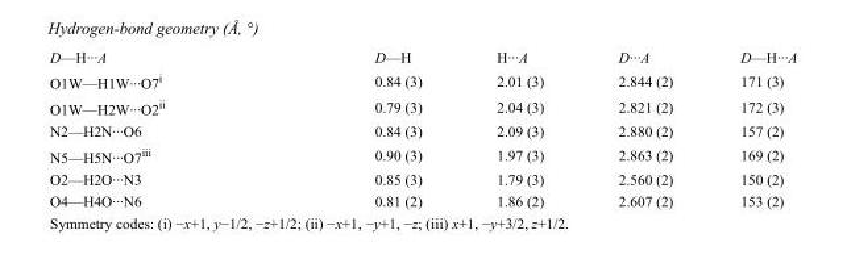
<table><tbody><tr><td>D—H···A</td><td>D—H</td><td>H···A</td><td>D···A</td><td>D—H···A</td></tr><tr><td>O1W—H1W···O7<sup>i</sup></td><td>0.84 (3)</td><td>2.01 (3)</td><td>2.844 (2)</td><td>171 (3)</td></tr><tr><td>O1W—H2W···O2<sup>ii</sup></td><td>0.79 (3)</td><td>2.04 (3)</td><td>2.821 (2)</td><td>172 (3)</td></tr><tr><td>N2—H2N···O6</td><td>0.84 (3)</td><td>2.09 (3)</td><td>2.880 (2)</td><td>157 (2)</td></tr><tr><td>N5—H5N···O7<sup>iii</sup></td><td>0.90 (3)</td><td>1.97 (3)</td><td>2.863 (2)</td><td>169 (2)</td></tr><tr><td>O2—H2O···N3</td><td>0.85 (3)</td><td>1.79 (3)</td><td>2.560 (2)</td><td>150 (2)</td></tr><tr><td>O4—H4O···N6</td><td>0.81 (2)</td><td>1.86 (2)</td><td>2.607 (2)</td><td>153 (2)</td></tr></tbody></table>